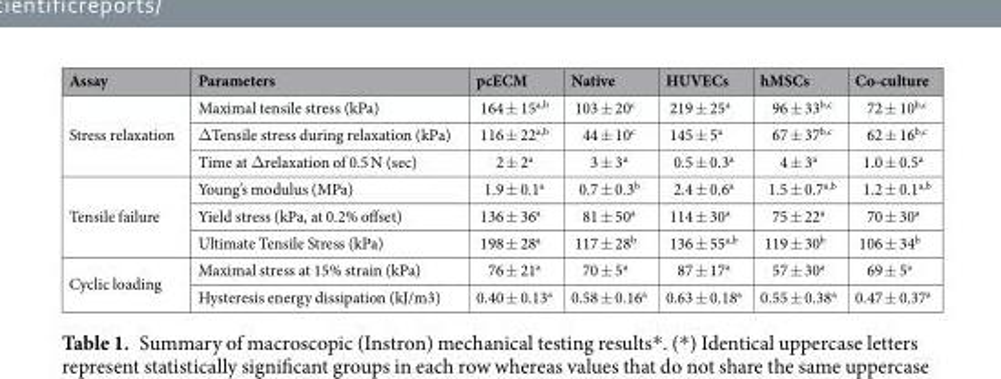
<table><thead><tr><td>Assay</td><td>Parameters</td><td>pcECM</td><td>Native</td><td>HUVECs</td><td>hMSCs</td><td>Co-culture</td></tr></thead><tbody><tr><td rowspan="3">Stress relaxation</td><td>Maximal tensile stress (kPa)</td><td>164 ± 15<sup>a,b</sup></td><td>103 ± 20<sup>c</sup></td><td>219 ± 25<sup>a</sup></td><td>96 ± 33<sup>b,c</sup></td><td>72 ± 10<sup>b,c</sup></td></tr><tr><td>ΔTensile stress during relaxation (kPa)</td><td>116 ± 22<sup>a,b</sup></td><td>44 ± 10<sup>c</sup></td><td>145 ± 5<sup>a</sup></td><td>67 ± 37<sup>b,c</sup></td><td>62 ± 16<sup>b,c</sup></td></tr><tr><td>Time at Δrelaxation of 0.5 N (sec)</td><td>2 ± 2<sup>a</sup></td><td>3 ± 3<sup>a</sup></td><td>0.5 ± 0.3<sup>a</sup></td><td>4 ± 3<sup>a</sup></td><td>1.0 ± 0.5<sup>a</sup></td></tr><tr><td rowspan="3">Tensile failure</td><td>Young’s modulus (MPa)</td><td>1.9 ± 0.1<sup>a</sup></td><td>0.7 ± 0.3<sup>b</sup></td><td>2.4 ± 0.6<sup>a</sup></td><td>1.5 ± 0.7<sup>a,b</sup></td><td>1.2 ± 0.1<sup>a,b</sup></td></tr><tr><td>Yield stress (kPa, at 0.2% offset)</td><td>136 ± 36<sup>a</sup></td><td>81 ± 50<sup>a</sup></td><td>114 ± 30<sup>a</sup></td><td>75 ± 22<sup>a</sup></td><td>70 ± 30<sup>a</sup></td></tr><tr><td>Ultimate Tensile Stress (kPa)</td><td>198 ± 28<sup>a</sup></td><td>117 ± 28<sup>b</sup></td><td>136 ± 55<sup>a,b</sup></td><td>119 ± 30<sup>b</sup></td><td>106 ± 34<sup>b</sup></td></tr><tr><td rowspan="2">Cyclic loading</td><td>Maximal stress at 15% strain (kPa)</td><td>76 ± 21<sup>a</sup></td><td>70 ± 5<sup>a</sup></td><td>87 ± 17<sup>a</sup></td><td>57 ± 30<sup>a</sup></td><td>69 ± 5<sup>a</sup></td></tr><tr><td>Hysteresis energy dissipation (kJ/m3)</td><td>0.40 ± 0.13<sup>a</sup></td><td>0.58 ± 0.16<sup>a</sup></td><td>0.63 ± 0.18<sup>a</sup></td><td>0.55 ± 0.38<sup>a</sup></td><td>0.47 ± 0.37<sup>a</sup></td></tr></tbody></table>